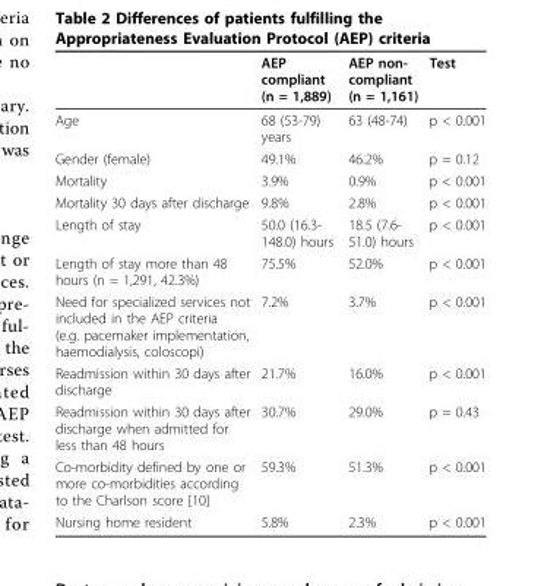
<table><thead><tr><td></td><td>AEP compliant (n = 1,889)</td><td>AEP non- compliant (n = 1,161)</td><td>Test</td></tr></thead><tbody><tr><td>Age</td><td>68 (53-79) years</td><td>63 (48-74)</td><td>p &lt; 0.001</td></tr><tr><td>Gender (female)</td><td>49.1%</td><td>46.2%</td><td>p = 0.12</td></tr><tr><td>Mortality</td><td>3.9%</td><td>0.9%</td><td>p &lt; 0.001</td></tr><tr><td>Mortality 30 days after discharge</td><td>9.8%</td><td>2.8%</td><td>p &lt; 0.001</td></tr><tr><td>Length of stay</td><td>50.0 (16.3- 148.0) hours</td><td>18.5 (7.6- 51.0) hours</td><td>p &lt; 0.001</td></tr><tr><td>Length of stay more than 48 hours (n = 1,291, 42.3%)</td><td>75.5%</td><td>52.0%</td><td>p &lt; 0.001</td></tr><tr><td>Need for specialized services not included in the AEP criteria (e.g. pacemaker implementation, haemodialysis, coloscopi)</td><td>7.2%</td><td>3.7%</td><td>p &lt; 0.001</td></tr><tr><td>Readmission within 30 days after discharge</td><td>21.7%</td><td>16.0%</td><td>p &lt; 0.001</td></tr><tr><td>Readmission within 30 days after discharge when admitted for less than 48 hours</td><td>30.7%</td><td>29.0%</td><td>p = 0.43</td></tr><tr><td>Co-morbidity defined by one or more co-morbidities according to the Charlson score [10]</td><td>59.3%</td><td>51.3%</td><td>p &lt; 0.001</td></tr><tr><td>Nursing home resident</td><td>5.8%</td><td>2.3%</td><td>p &lt; 0.001</td></tr></tbody></table>